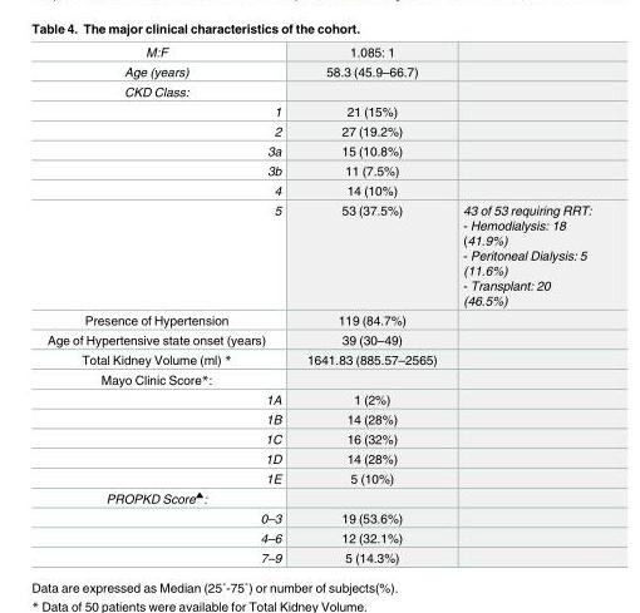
<table><tbody><tr><td>M:F</td><td>1.085: 1</td><td></td></tr><tr><td>Age (years)</td><td>58.3 (45.9–66.7)</td><td></td></tr><tr><td colspan="3">CKD Class:</td></tr><tr><td>1</td><td>21 (15%)</td><td></td></tr><tr><td>2</td><td>27 (19.2%)</td><td></td></tr><tr><td>3a</td><td>15 (10.8%)</td><td></td></tr><tr><td>3b</td><td>11 (7.5%)</td><td></td></tr><tr><td>4</td><td>14 (10%)</td><td></td></tr><tr><td>5</td><td>53 (37.5%)</td><td>43 of 53 requiring RRT: - Hemodialysis: 18 (41.9%) - Peritoneal Dialysis: 5 (11.6%) - Transplant: 20 (46.5%)</td></tr><tr><td>Presence of Hypertension</td><td>119 (84.7%)</td><td></td></tr><tr><td>Age of Hypertensive state onset (years)</td><td>39 (30–49)</td><td></td></tr><tr><td>Total Kidney Volume (ml) *</td><td>1641.83 (885.57–2565)</td><td></td></tr><tr><td colspan="3">Mayo Clinic Score*:</td></tr><tr><td>1A</td><td>1 (2%)</td><td></td></tr><tr><td>1B</td><td>14 (28%)</td><td></td></tr><tr><td>1C</td><td>16 (32%)</td><td></td></tr><tr><td>1D</td><td>14 (28%)</td><td></td></tr><tr><td>1E</td><td>5 (10%)</td><td></td></tr><tr><td colspan="3">PROPKD Score<sup>▲</sup>:</td></tr><tr><td>0–3</td><td>19 (53.6%)</td><td></td></tr><tr><td>4–6</td><td>12 (32.1%)</td><td></td></tr><tr><td>7–9</td><td>5 (14.3%)</td><td></td></tr></tbody></table>